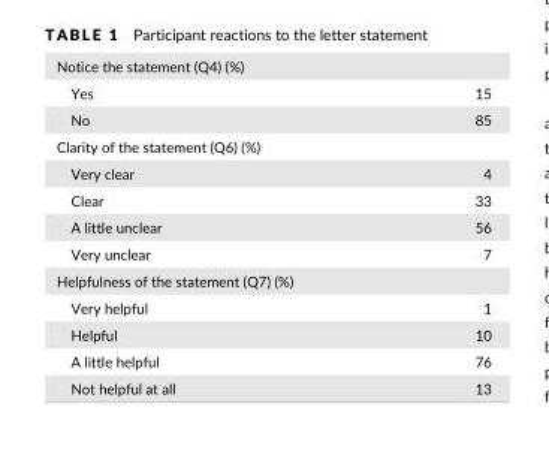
<table><tbody><tr><td colspan="2">Notice the statement (Q4) (%)</td></tr><tr><td>Yes</td><td>15</td></tr><tr><td>No</td><td>85</td></tr><tr><td colspan="2">Clarity of the statement (Q6) (%)</td></tr><tr><td>Very clear</td><td>4</td></tr><tr><td>Clear</td><td>33</td></tr><tr><td>A little unclear</td><td>56</td></tr><tr><td>Very unclear</td><td>7</td></tr><tr><td colspan="2">Helpfulness of the statement (Q7) (%)</td></tr><tr><td>Very helpful</td><td>1</td></tr><tr><td>Helpful</td><td>10</td></tr><tr><td>A little helpful</td><td>76</td></tr><tr><td>Not helpful at all</td><td>13</td></tr></tbody></table>